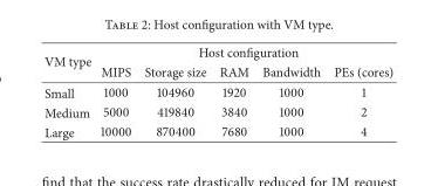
<table><thead><tr><td rowspan="2">VM type</td><td colspan="5">Host configuration</td></tr><tr><td>MIPS</td><td>Storage size</td><td>RAM</td><td>Bandwidth</td><td>PEs (cores)</td></tr></thead><tbody><tr><td>Small</td><td>1000</td><td>104960</td><td>1920</td><td>1000</td><td>1</td></tr><tr><td>Medium</td><td>5000</td><td>419840</td><td>3840</td><td>1000</td><td>2</td></tr><tr><td>Large</td><td>10000</td><td>870400</td><td>7680</td><td>1000</td><td>4</td></tr></tbody></table>